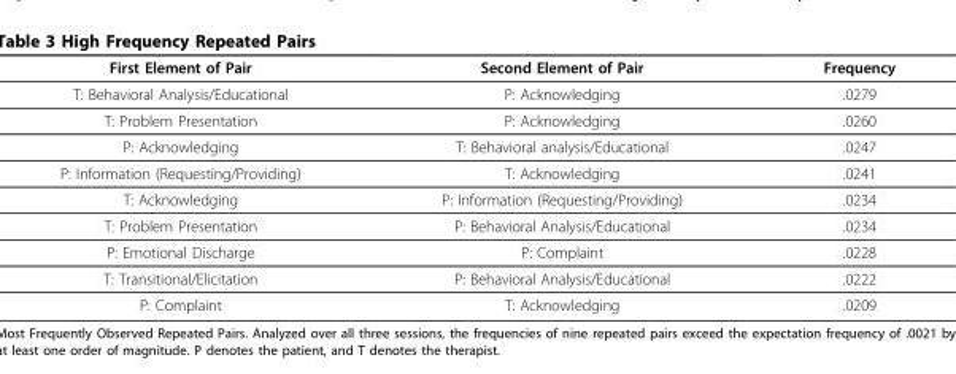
<table><thead><tr><td>First Element of Pair</td><td>Second Element of Pair</td><td>Frequency</td></tr></thead><tbody><tr><td>T: Behavioral Analysis/Educational</td><td>P: Acknowledging</td><td>.0279</td></tr><tr><td>T: Problem Presentation</td><td>P: Acknowledging</td><td>.0260</td></tr><tr><td>P: Acknowledging</td><td>T: Behavioral analysis/Educational</td><td>.0247</td></tr><tr><td>P: Information (Requesting/Providing)</td><td>T: Acknowledging</td><td>.0241</td></tr><tr><td>T: Acknowledging</td><td>P: Information (Requesting/Providing)</td><td>.0234</td></tr><tr><td>T: Problem Presentation</td><td>P: Behavioral Analysis/Educational</td><td>.0234</td></tr><tr><td>P: Emotional Discharge</td><td>P: Complaint</td><td>.0228</td></tr><tr><td>T: Transitional/Elicitation</td><td>P: Behavioral Analysis/Educational</td><td>.0222</td></tr><tr><td>P: Complaint</td><td>T: Acknowledging</td><td>.0209</td></tr></tbody></table>